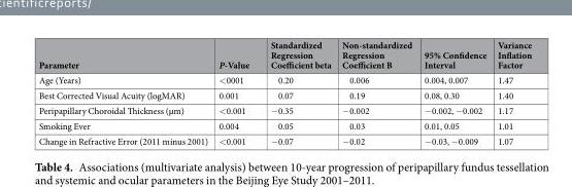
<table><thead><tr><td>Parameter</td><td>P-Value</td><td>Standardized Regression Coefficient beta</td><td>Non-standardized Regression Coefficient B</td><td>95% Confidence Interval</td><td>Variance Inflation Factor</td></tr></thead><tbody><tr><td>Age (Years)</td><td>&lt;0001</td><td>0.20</td><td>0.006</td><td>0.004, 0.007</td><td>1.47</td></tr><tr><td>Best Corrected Visual Acuity (logMAR)</td><td>0.001</td><td>0.07</td><td>0.19</td><td>0.08, 0.30</td><td>1.40</td></tr><tr><td>Peripapillary Choroidal Thickness (µm)</td><td>&lt;0.001</td><td>−0.35</td><td>−0.002</td><td>−0.002, −0.002</td><td>1.17</td></tr><tr><td>Smoking Ever</td><td>0.004</td><td>0.05</td><td>0.03</td><td>0.01, 0.05</td><td>1.01</td></tr><tr><td>Change in Refractive Error (2011 minus 2001)</td><td>&lt;0.001</td><td>−0.07</td><td>−0.02</td><td>−0.03, −0.009</td><td>1.07</td></tr></tbody></table>